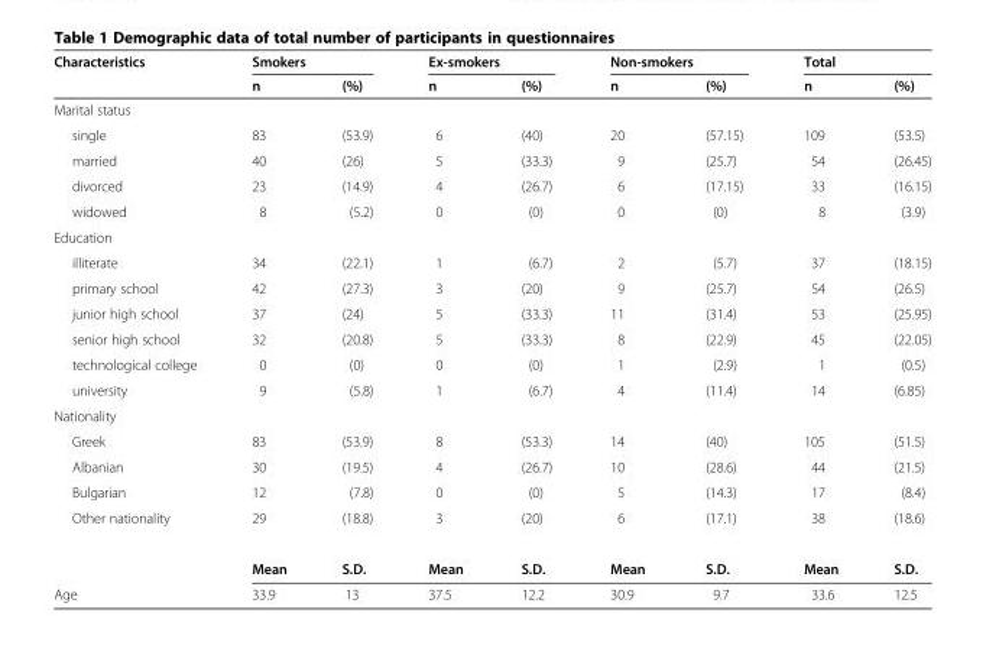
<table><thead><tr><td rowspan="2">Characteristics</td><td colspan="2">Smokers</td><td colspan="2">Ex-smokers</td><td colspan="2">Non-smokers</td><td colspan="2">Total</td></tr><tr><td>n</td><td>(%)</td><td>n</td><td>(%)</td><td>n</td><td>(%)</td><td>n</td><td>(%)</td></tr></thead><tbody><tr><td colspan="9">Marital status</td></tr><tr><td>single</td><td>83</td><td>(53.9)</td><td>6</td><td>(40)</td><td>20</td><td>(57.15)</td><td>109</td><td>(53.5)</td></tr><tr><td>married</td><td>40</td><td>(26)</td><td>5</td><td>(33.3)</td><td>9</td><td>(25.7)</td><td>54</td><td>(26.45)</td></tr><tr><td>divorced</td><td>23</td><td>(14.9)</td><td>4</td><td>(26.7)</td><td>6</td><td>(17.15)</td><td>33</td><td>(16.15)</td></tr><tr><td>widowed</td><td>8</td><td>(5.2)</td><td>0</td><td>(0)</td><td>0</td><td>(0)</td><td>8</td><td>(3.9)</td></tr><tr><td colspan="9">Education</td></tr><tr><td>illiterate</td><td>34</td><td>(22.1)</td><td>1</td><td>(6.7)</td><td>2</td><td>(5.7)</td><td>37</td><td>(18.15)</td></tr><tr><td>primary school</td><td>42</td><td>(27.3)</td><td>3</td><td>(20)</td><td>9</td><td>(25.7)</td><td>54</td><td>(26.5)</td></tr><tr><td>junior high school</td><td>37</td><td>(24)</td><td>5</td><td>(33.3)</td><td>11</td><td>(31.4)</td><td>53</td><td>(25.95)</td></tr><tr><td>senior high school</td><td>32</td><td>(20.8)</td><td>5</td><td>(33.3)</td><td>8</td><td>(22.9)</td><td>45</td><td>(22.05)</td></tr><tr><td>technological college</td><td>0</td><td>(0)</td><td>0</td><td>(0)</td><td>1</td><td>(2.9)</td><td>1</td><td>(0.5)</td></tr><tr><td>university</td><td>9</td><td>(5.8)</td><td>1</td><td>(6.7)</td><td>4</td><td>(11.4)</td><td>14</td><td>(6.85)</td></tr><tr><td colspan="9">Nationality</td></tr><tr><td>Greek</td><td>83</td><td>(53.9)</td><td>8</td><td>(53.3)</td><td>14</td><td>(40)</td><td>105</td><td>(51.5)</td></tr><tr><td>Albanian</td><td>30</td><td>(19.5)</td><td>4</td><td>(26.7)</td><td>10</td><td>(28.6)</td><td>44</td><td>(21.5)</td></tr><tr><td>Bulgarian</td><td>12</td><td>(7.8)</td><td>0</td><td>(0)</td><td>5</td><td>(14.3)</td><td>17</td><td>(8.4)</td></tr><tr><td rowspan="2">Other nationality</td><td>29</td><td>(18.8)</td><td>3</td><td>(20)</td><td>6</td><td>(17.1)</td><td>38</td><td>(18.6)</td></tr><tr><td>Mean</td><td>S.D.</td><td>Mean</td><td>S.D.</td><td>Mean</td><td>S.D.</td><td>Mean</td><td>S.D.</td></tr><tr><td>Age</td><td>33.9</td><td>13</td><td>37.5</td><td>12.2</td><td>30.9</td><td>9.7</td><td>33.6</td><td>12.5</td></tr></tbody></table>